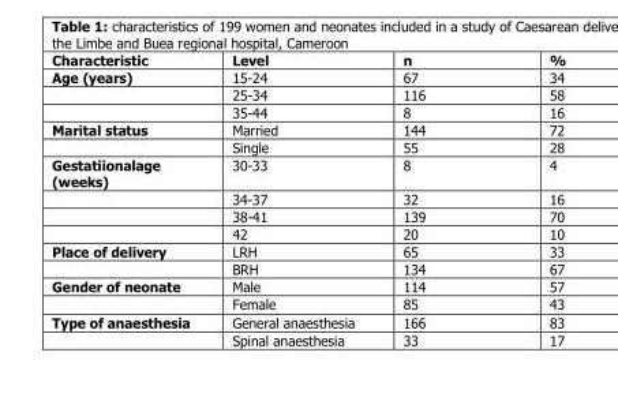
<table><thead><tr><td>Characteristic</td><td>Level</td><td>n</td><td>%</td></tr></thead><tbody><tr><td rowspan="3">Age (years)</td><td>15-24</td><td>67</td><td>34</td></tr><tr><td>25-34</td><td>116</td><td>58</td></tr><tr><td>35-44</td><td>8</td><td>16</td></tr><tr><td rowspan="2">Marital status</td><td>Married</td><td>144</td><td>72</td></tr><tr><td>Single</td><td>55</td><td>28</td></tr><tr><td rowspan="4">Gestatiionalage (weeks)</td><td>30-33</td><td>8</td><td>4</td></tr><tr><td>34-37</td><td>32</td><td>16</td></tr><tr><td>38-41</td><td>139</td><td>70</td></tr><tr><td>42</td><td>20</td><td>10</td></tr><tr><td rowspan="2">Place of delivery</td><td>LRH</td><td>65</td><td>33</td></tr><tr><td>BRH</td><td>134</td><td>67</td></tr><tr><td rowspan="2">Gender of neonate</td><td>Male</td><td>114</td><td>57</td></tr><tr><td>Female</td><td>85</td><td>43</td></tr><tr><td rowspan="2">Type of anaesthesia</td><td>General anaesthesia</td><td>166</td><td>83</td></tr><tr><td>Spinal anaesthesia</td><td>33</td><td>17</td></tr></tbody></table>